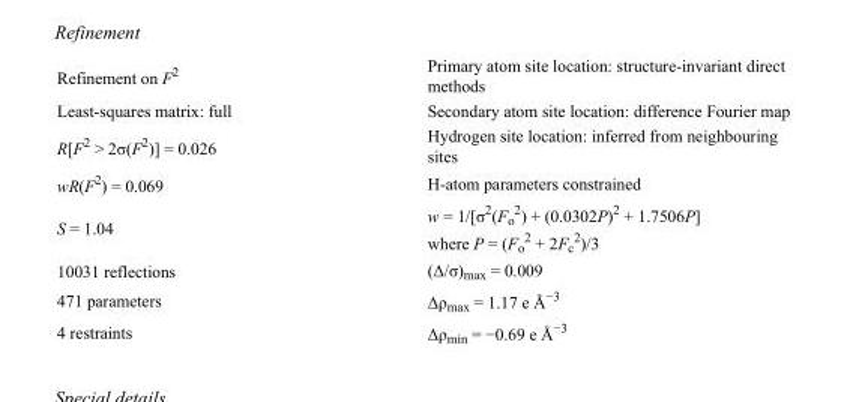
<table><tbody><tr><td>Refinement on F<sup>2</sup></td><td>Primary atom site location: structure-invariant direct methods</td></tr><tr><td>Least-squares matrix: full</td><td>Secondary atom site location: difference Fourier map</td></tr><tr><td>R[F<sup>2</sup> &gt; 2σ(F<sup>2</sup>)] = 0.026</td><td>Hydrogen site location: inferred from neighbouring sites</td></tr><tr><td>wR(F<sup>2</sup>) = 0.069</td><td>H-atom parameters constrained</td></tr><tr><td>S = 1.04</td><td>w = 1/[σ<sup>2</sup>(F<sub>o</sub> <sup>2</sup>) + (0.0302P)<sup>2</sup> + 1.7506P] where P = (F<sub>o</sub> <sup>2</sup> + 2F<sub>c</sub> <sup>2</sup>)/3</td></tr><tr><td>10031 reflections</td><td>(Δ/σ)<sub>max</sub> = 0.009</td></tr><tr><td>471 parameters</td><td>Δρ<sub>max</sub> = 1.17 e Å<sup>−3</sup></td></tr><tr><td>4 restraints</td><td>Δρ<sub>min</sub> = −0.69 e Å<sup>−3</sup></td></tr></tbody></table>